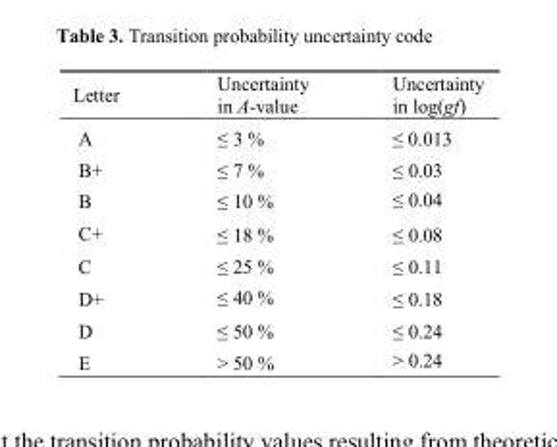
<table><thead><tr><td>Letter</td><td>Uncertainty in A-value</td><td>Uncertainty in log(gf)</td></tr></thead><tbody><tr><td>A</td><td>≤ 3 %</td><td>≤ 0.013</td></tr><tr><td>B+</td><td>≤ 7 %</td><td>≤ 0.03</td></tr><tr><td>B</td><td>≤ 10 %</td><td>≤ 0.04</td></tr><tr><td>C+</td><td>≤ 18 %</td><td>≤ 0.08</td></tr><tr><td>C</td><td>≤ 25 %</td><td>≤ 0.11</td></tr><tr><td>D+</td><td>≤ 40 %</td><td>≤ 0.18</td></tr><tr><td>D</td><td>≤ 50 %</td><td>≤ 0.24</td></tr><tr><td>E</td><td>&gt; 50 %</td><td>&gt; 0.24</td></tr></tbody></table>